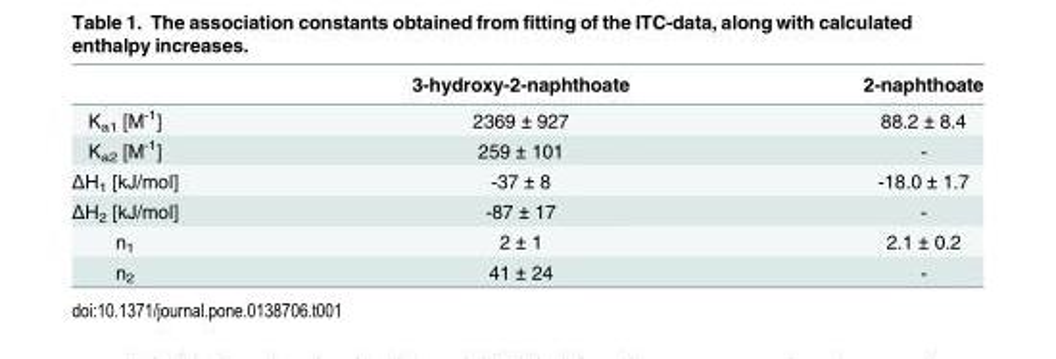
<table><thead><tr><td></td><td>3-hydroxy-2-naphthoate</td><td>2-naphthoate</td></tr></thead><tbody><tr><td>K<sub>a1</sub> [M<sup>-1</sup>]</td><td>2369 ± 927</td><td>88.2 ± 8.4</td></tr><tr><td>K<sub>a2</sub> [M<sup>-1</sup>]</td><td>259 ± 101</td><td>-</td></tr><tr><td>ΔH<sub>1</sub> [kJ/mol]</td><td>-37 ± 8</td><td>-18.0 ± 1.7</td></tr><tr><td>ΔH<sub>2</sub> [kJ/mol]</td><td>-87 ± 17</td><td>-</td></tr><tr><td>n<sub>1</sub></td><td>2 ± 1</td><td>2.1 ± 0.2</td></tr><tr><td>n<sub>2</sub></td><td>41 ± 24</td><td>-</td></tr></tbody></table>